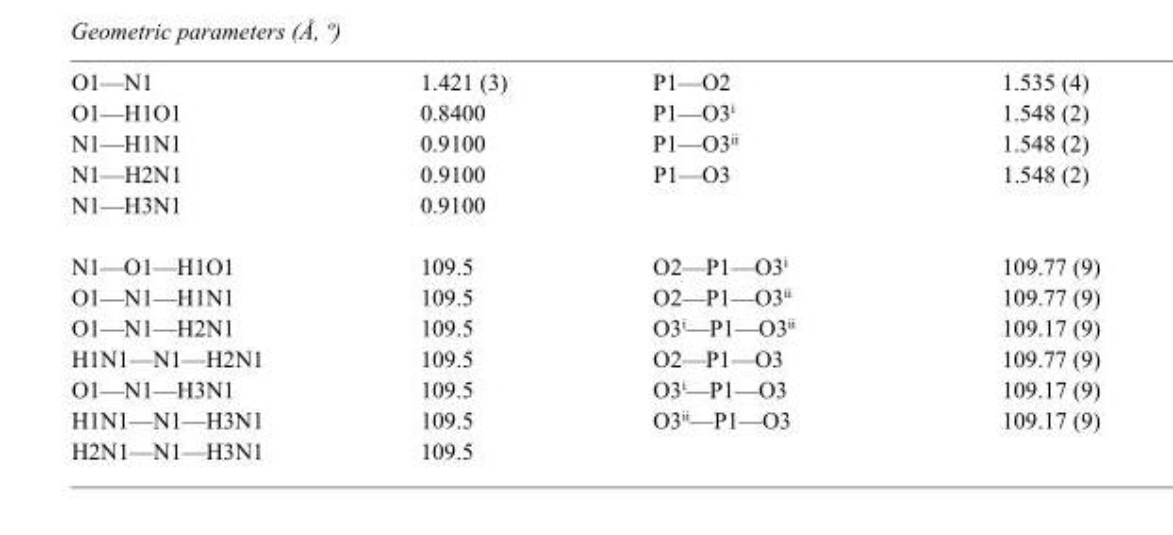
<table><tbody><tr><td>O1—N1</td><td>1.421 (3)</td><td>P1—O2</td><td>1.535 (4)</td></tr><tr><td>O1—H1O1</td><td>0.8400</td><td>P1—O3<sup>i</sup></td><td>1.548 (2)</td></tr><tr><td>N1—H1N1</td><td>0.9100</td><td>P1—O3<sup>ii</sup></td><td>1.548 (2)</td></tr><tr><td>N1—H2N1</td><td>0.9100</td><td>P1—O3</td><td>1.548 (2)</td></tr><tr><td>N1—H3N1</td><td>0.9100</td><td></td><td></td></tr><tr><td>N1—O1—H1O1</td><td>109.5</td><td>O2—P1—O3<sup>i</sup></td><td>109.77 (9)</td></tr><tr><td>O1—N1—H1N1</td><td>109.5</td><td>O2—P1—O3<sup>ii</sup></td><td>109.77 (9)</td></tr><tr><td>O1—N1—H2N1</td><td>109.5</td><td>O3<sup>i</sup>—P1—O3<sup>ii</sup></td><td>109.17 (9)</td></tr><tr><td>H1N1—N1—H2N1</td><td>109.5</td><td>O2—P1—O3</td><td>109.77 (9)</td></tr><tr><td>O1—N1—H3N1</td><td>109.5</td><td>O3<sup>i</sup>—P1—O3</td><td>109.17 (9)</td></tr><tr><td>H1N1—N1—H3N1</td><td>109.5</td><td>O3<sup>ii</sup>—P1—O3</td><td>109.17 (9)</td></tr><tr><td>H2N1—N1—H3N1</td><td>109.5</td><td></td><td></td></tr></tbody></table>